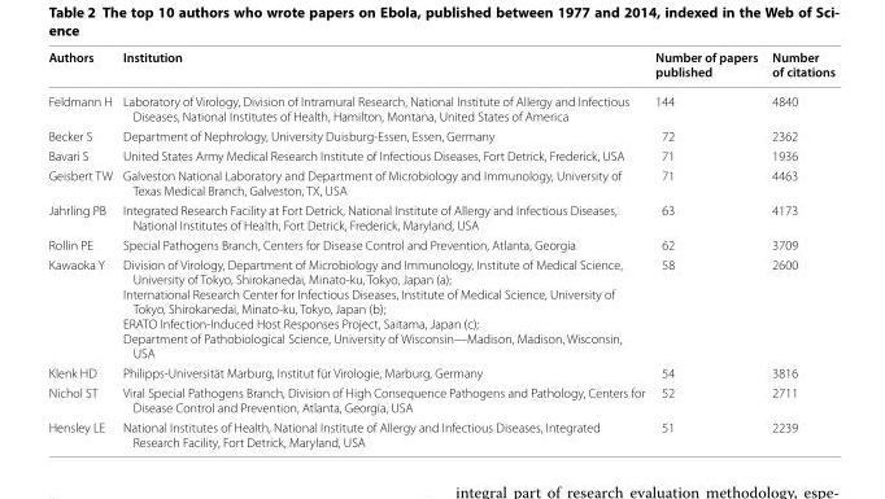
<table><thead><tr><td>Authors</td><td>Institution</td><td>Number of papers published</td><td>Number of citations</td></tr></thead><tbody><tr><td>Feldmann H</td><td>Laboratory of Virology, Division of Intramural Research, National Institute of Allergy and Infectious Diseases, National Institutes of Health, Hamilton, Montana, United States of America</td><td>144</td><td>4840</td></tr><tr><td>Becker S</td><td>Department of Nephrology, University Duisburg-Essen, Essen, Germany</td><td>72</td><td>2362</td></tr><tr><td>Bavari S</td><td>United States Army Medical Research Institute of Infectious Diseases, Fort Detrick, Frederick, USA</td><td>71</td><td>1936</td></tr><tr><td>Geisbert TW</td><td>Galveston National Laboratory and Department of Microbiology and Immunology, University of Texas Medical Branch, Galveston, TX, USA</td><td>71</td><td>4463</td></tr><tr><td>Jahrling PB</td><td>Integrated Research Facility at Fort Detrick, National Institute of Allergy and Infectious Diseases, National Institutes of Health, Fort Detrick, Frederick, Maryland, USA</td><td>63</td><td>4173</td></tr><tr><td>Rollin PE</td><td>Special Pathogens Branch, Centers for Disease Control and Prevention, Atlanta, Georgia</td><td>62</td><td>3709</td></tr><tr><td>Kawaoka Y</td><td>Division of Virology, Department of Microbiology and Immunology, Institute of Medical Science, University of Tokyo, Shirokanedai, Minato-ku, Tokyo, Japan (a); International Research Center for Infectious Diseases, Institute of Medical Science, University of Tokyo, Shirokanedai, Minato-ku, Tokyo, Japan (b); ERATO Infection-Induced Host Responses Project, Saitama, Japan (c); Department of Pathobiological Science, University of Wisconsin—Madison, Madison, Wisconsin, USA</td><td>58</td><td>2600</td></tr><tr><td>Klenk HD</td><td>Philipps-Universität Marburg, Institut für Virologie, Marburg, Germany</td><td>54</td><td>3816</td></tr><tr><td>Nichol ST</td><td>Viral Special Pathogens Branch, Division of High Consequence Pathogens and Pathology, Centers for Disease Control and Prevention, Atlanta, Georgia, USA</td><td>52</td><td>2711</td></tr><tr><td>Hensley LE</td><td>National Institutes of Health, National Institute of Allergy and Infectious Diseases, Integrated Research Facility, Fort Detrick, Maryland, USA</td><td>51</td><td>2239</td></tr></tbody></table>